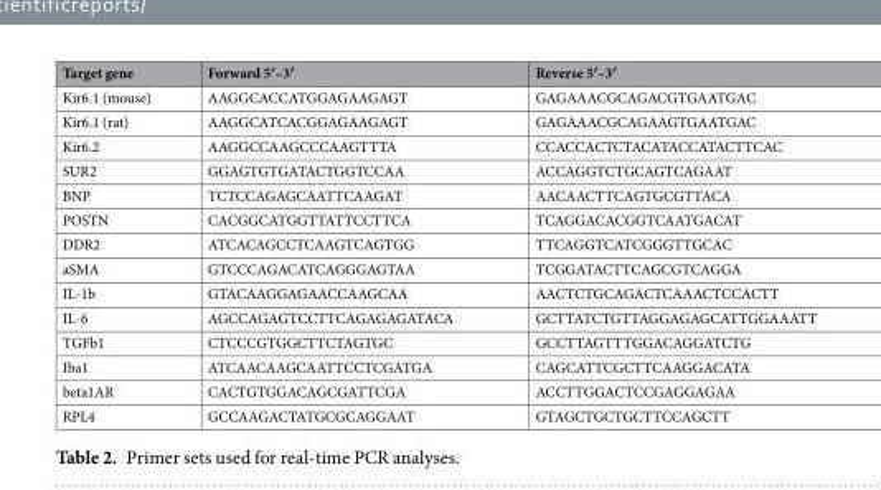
<table><thead><tr><td>Target gene</td><td>Forward 5′–3′</td><td>Reverse 5′–3′</td></tr></thead><tbody><tr><td>Kir6.1 (mouse)</td><td>AAGGCACCATGGAGAAGAGT</td><td>GAGAAACGCAGACGTGAATGAC</td></tr><tr><td>Kir6.1 (rat)</td><td>AAGGCATCACGGAGAAGAGT</td><td>GAGAAACGCAGAAGTGAATGAC</td></tr><tr><td>Kir6.2</td><td>AAGGCCAAGCCCAAGTTTA</td><td>CCACCACTCTACATACCATACTTCAC</td></tr><tr><td>SUR2</td><td>GGAGTGTGATACTGGTCCAA</td><td>ACCAGGTCTGCAGTCAGAAT</td></tr><tr><td>BNP</td><td>TCTCCAGAGCAATTCAAGAT</td><td>AACAACTTCAGTGCGTTACA</td></tr><tr><td>POSTN</td><td>CACGGCATGGTTATTCCTTCA</td><td>TCAGGACACGGTCAATGACAT</td></tr><tr><td>DDR2</td><td>ATCACAGCCTCAAGTCAGTGG</td><td>TTCAGGTCATCGGGTTGCAC</td></tr><tr><td>aSMA</td><td>GTCCCAGACATCAGGGAGTAA</td><td>TCGGATACTTCAGCGTCAGGA</td></tr><tr><td>IL-1b</td><td>GTACAAGGAGAACCAAGCAA</td><td>AACTCTGCAGACTCAAACTCCACTT</td></tr><tr><td>IL-6</td><td>AGCCAGAGTCCTTCAGAGAGATACA</td><td>GCTTATCTGTTAGGAGAGCATTGGAAATT</td></tr><tr><td>TGFb1</td><td>CTCCCGTGGCTTCTAGTGC</td><td>GCCTTAGTTTGGACAGGATCTG</td></tr><tr><td>Iba1</td><td>ATCAACAAGCAATTCCTCGATGA</td><td>CAGCATTCGCTTCAAGGACATA</td></tr><tr><td>beta1AR</td><td>CACTGTGGACAGCGATTCGA</td><td>ACCTTGGACTCCGAGGAGAA</td></tr><tr><td>RPL4</td><td>GCCAAGACTATGCGCAGGAAT</td><td>GTAGCTGCTGCTTCCAGCTT</td></tr></tbody></table>